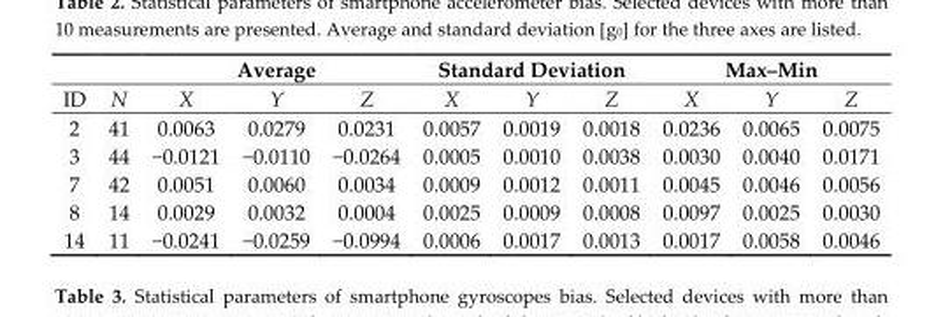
<table><thead><tr><td rowspan="2">ID</td><td rowspan="2">N</td><td colspan="3">Average</td><td colspan="3">Standard Deviation</td><td colspan="3">Max–Min</td></tr><tr><td>X</td><td>Y</td><td>Z</td><td>X</td><td>Y</td><td>Z</td><td>X</td><td>Y</td><td>Z</td></tr></thead><tbody><tr><td>2</td><td>41</td><td>0.0063</td><td>0.0279</td><td>0.0231</td><td>0.0057</td><td>0.0019</td><td>0.0018</td><td>0.0236</td><td>0.0065</td><td>0.0075</td></tr><tr><td>3</td><td>44</td><td>−0.0121</td><td>−0.0110</td><td>−0.0264</td><td>0.0005</td><td>0.0010</td><td>0.0038</td><td>0.0030</td><td>0.0040</td><td>0.0171</td></tr><tr><td>7</td><td>42</td><td>0.0051</td><td>0.0060</td><td>0.0034</td><td>0.0009</td><td>0.0012</td><td>0.0011</td><td>0.0045</td><td>0.0046</td><td>0.0056</td></tr><tr><td>8</td><td>14</td><td>0.0029</td><td>0.0032</td><td>0.0004</td><td>0.0025</td><td>0.0009</td><td>0.0008</td><td>0.0097</td><td>0.0025</td><td>0.0030</td></tr><tr><td>14</td><td>11</td><td>−0.0241</td><td>−0.0259</td><td>−0.0994</td><td>0.0006</td><td>0.0017</td><td>0.0013</td><td>0.0017</td><td>0.0058</td><td>0.0046</td></tr></tbody></table>